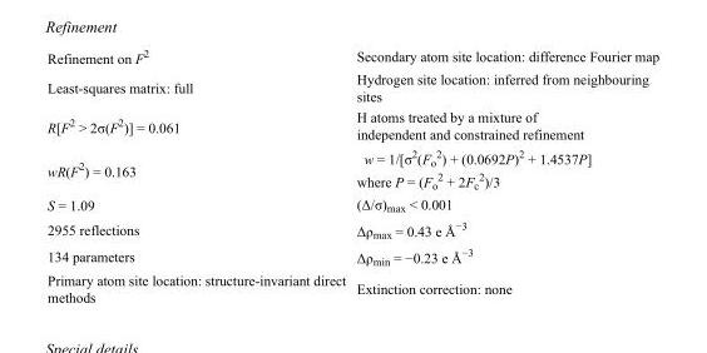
<table><tbody><tr><td>Refinement on F<sup>2</sup></td><td>Secondary atom site location: difference Fourier map</td></tr><tr><td>Least-squares matrix: full</td><td>Hydrogen site location: inferred from neighbouring sites</td></tr><tr><td>R[F<sup>2</sup> &gt; 2σ(F<sup>2</sup>)] = 0.061</td><td>H atoms treated by a mixture of independent and constrained refinement</td></tr><tr><td>wR(F<sup>2</sup>) = 0.163</td><td>w = 1/[σ<sup>2</sup>(F<sub>o</sub> <sup>2</sup>) + (0.0692P)<sup>2</sup> + 1.4537P] where P = (F<sub>o</sub> <sup>2</sup> + 2F<sub>c</sub> <sup>2</sup>)/3</td></tr><tr><td>S = 1.09</td><td>(Δ/σ)<sub>max</sub> &lt; 0.001</td></tr><tr><td>2955 reflections</td><td>Δρ<sub>max</sub> = 0.43 e Å<sup>−3</sup></td></tr><tr><td>134 parameters</td><td>Δρ<sub>min</sub> = −0.23 e Å<sup>−3</sup></td></tr><tr><td>Primary atom site location: structure-invariant direct methods</td><td>Extinction correction: none</td></tr></tbody></table>